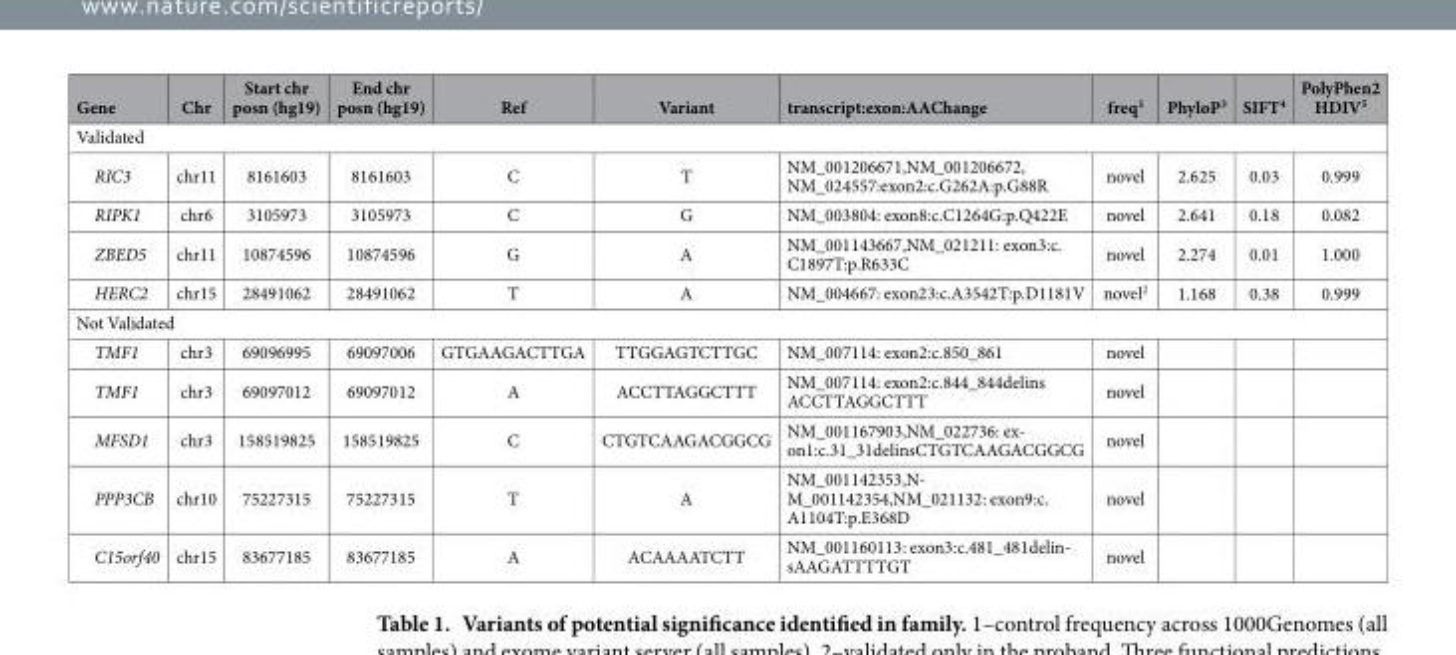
<table><thead><tr><td>Gene</td><td>Chr</td><td>Start chr posn (hg19)</td><td>End chr posn (hg19)</td><td>Ref</td><td>Variant</td><td>transcript:exon:AAChange</td><td>freq<sup>1</sup></td><td>PhyloP<sup>3</sup></td><td>SIFT<sup>4</sup></td><td>PolyPhen2 HDIV<sup>5</sup></td></tr></thead><tbody><tr><td colspan="11">Validated</td></tr><tr><td>RIC3</td><td>chr11</td><td>8161603</td><td>8161603</td><td>C</td><td>T</td><td>NM_001206671,NM_001206672, NM_024557:exon2:c.G262A:p.G88R</td><td>novel</td><td>2.625</td><td>0.03</td><td>0.999</td></tr><tr><td>RIPK1</td><td>chr6</td><td>3105973</td><td>3105973</td><td>C</td><td>G</td><td>NM_003804: exon8:c.C1264G:p.Q422E</td><td>novel</td><td>2.641</td><td>0.18</td><td>0.082</td></tr><tr><td>ZBED5</td><td>chr11</td><td>10874596</td><td>10874596</td><td>G</td><td>A</td><td>NM_001143667,NM_021211: exon3:c. C1897T:p.R633C</td><td>novel</td><td>2.274</td><td>0.01</td><td>1.000</td></tr><tr><td>HERC2</td><td>chr15</td><td>28491062</td><td>28491062</td><td>T</td><td>A</td><td>NM_004667: exon23:c.A3542T:p.D1181V</td><td>novel<sup>2</sup></td><td>1.168</td><td>0.38</td><td>0.999</td></tr><tr><td colspan="11">Not Validated</td></tr><tr><td>TMF1</td><td>chr3</td><td>69096995</td><td>69097006</td><td>GTGAAGACTTGA</td><td>TTGGAGTCTTGC</td><td>NM_007114: exon2:c.850_861</td><td>novel</td><td></td><td></td><td></td></tr><tr><td>TMF1</td><td>chr3</td><td>69097012</td><td>69097012</td><td>A</td><td>ACCTTAGGCTTT</td><td>NM_007114: exon2:c.844_844delins ACCTTAGGCTTT</td><td>novel</td><td></td><td></td><td></td></tr><tr><td>MFSD1</td><td>chr3</td><td>158519825</td><td>158519825</td><td>C</td><td>CTGTCAAGACGGCG</td><td>NM_001167903,NM_022736: ex- on1:c.31_31delinsCTGTCAAGACGGCG</td><td>novel</td><td></td><td></td><td></td></tr><tr><td>PPP3CB</td><td>chr10</td><td>75227315</td><td>75227315</td><td>T</td><td>A</td><td>NM_001142353,N- M_001142354,NM_021132: exon9:c. A1104T:p.E368D</td><td>novel</td><td></td><td></td><td></td></tr><tr><td>C15orf40</td><td>chr15</td><td>83677185</td><td>83677185</td><td>A</td><td>ACAAAATCTT</td><td>NM_001160113: exon3:c.481_481delin- sAAGATTTTGT</td><td>novel</td><td></td><td></td><td></td></tr></tbody></table>